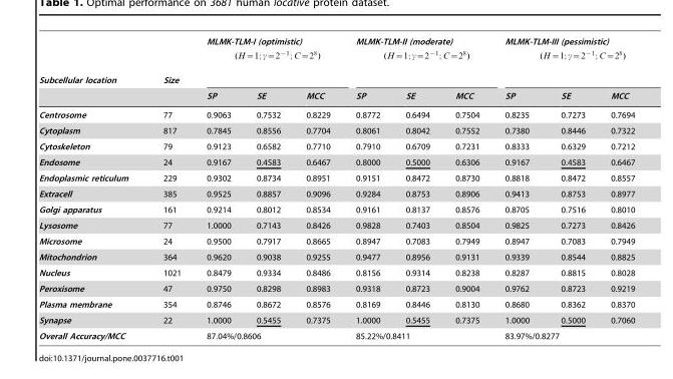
<table><thead><tr><td rowspan="2">Subcellular location</td><td rowspan="2">Size</td><td colspan="3">MLMK-TLM-I (optimistic) (H~1; c~2{1; C~28)</td><td colspan="3">MLMK-TLM-II (moderate) (H~1; c~2{1; C~28)</td><td colspan="3">MLMK-TLM-III (pessimistic) (H~1; c~2{1; C~28)</td></tr><tr><td>SP</td><td>SE</td><td>MCC</td><td>SP</td><td>SE</td><td>MCC</td><td>SP</td><td>SE</td><td>MCC</td></tr></thead><tbody><tr><td>Centrosome</td><td>77</td><td>0.9063</td><td>0.7532</td><td>0.8229</td><td>0.8772</td><td>0.6494</td><td>0.7504</td><td>0.8235</td><td>0.7273</td><td>0.7694</td></tr><tr><td>Cytoplasm</td><td>817</td><td>0.7845</td><td>0.8556</td><td>0.7704</td><td>0.8061</td><td>0.8042</td><td>0.7552</td><td>0.7380</td><td>0.8446</td><td>0.7322</td></tr><tr><td>Cytoskeleton</td><td>79</td><td>0.9123</td><td>0.6582</td><td>0.7710</td><td>0.7910</td><td>0.6709</td><td>0.7231</td><td>0.8333</td><td>0.6329</td><td>0.7212</td></tr><tr><td>Endosome</td><td>24</td><td>0.9167</td><td>0.4583</td><td>0.6467</td><td>0.8000</td><td>0.5000</td><td>0.6306</td><td>0.9167</td><td>0.4583</td><td>0.6467</td></tr><tr><td>Endoplasmic reticulum</td><td>229</td><td>0.9302</td><td>0.8734</td><td>0.8951</td><td>0.9151</td><td>0.8472</td><td>0.8730</td><td>0.8818</td><td>0.8472</td><td>0.8557</td></tr><tr><td>Extracell</td><td>385</td><td>0.9525</td><td>0.8857</td><td>0.9096</td><td>0.9284</td><td>0.8753</td><td>0.8906</td><td>0.9413</td><td>0.8753</td><td>0.8977</td></tr><tr><td>Golgi apparatus</td><td>161</td><td>0.9214</td><td>0.8012</td><td>0.8534</td><td>0.9161</td><td>0.8137</td><td>0.8576</td><td>0.8705</td><td>0.7516</td><td>0.8010</td></tr><tr><td>Lysosome</td><td>77</td><td>1.0000</td><td>0.7143</td><td>0.8426</td><td>0.9828</td><td>0.7403</td><td>0.8504</td><td>0.9825</td><td>0.7273</td><td>0.8426</td></tr><tr><td>Microsome</td><td>24</td><td>0.9500</td><td>0.7917</td><td>0.8665</td><td>0.8947</td><td>0.7083</td><td>0.7949</td><td>0.8947</td><td>0.7083</td><td>0.7949</td></tr><tr><td>Mitochondrion</td><td>364</td><td>0.9620</td><td>0.9038</td><td>0.9255</td><td>0.9477</td><td>0.8956</td><td>0.9131</td><td>0.9339</td><td>0.8544</td><td>0.8825</td></tr><tr><td>Nucleus</td><td>1021</td><td>0.8479</td><td>0.9334</td><td>0.8486</td><td>0.8156</td><td>0.9314</td><td>0.8238</td><td>0.8287</td><td>0.8815</td><td>0.8028</td></tr><tr><td>Peroxisome</td><td>47</td><td>0.9750</td><td>0.8298</td><td>0.8983</td><td>0.9318</td><td>0.8723</td><td>0.9004</td><td>0.9762</td><td>0.8723</td><td>0.9219</td></tr><tr><td>Plasma membrane</td><td>354</td><td>0.8746</td><td>0.8672</td><td>0.8576</td><td>0.8169</td><td>0.8446</td><td>0.8130</td><td>0.8680</td><td>0.8362</td><td>0.8370</td></tr><tr><td>Synapse</td><td>22</td><td>1.0000</td><td>0.5455</td><td>0.7375</td><td>1.0000</td><td>0.5455</td><td>0.7375</td><td>1.0000</td><td>0.5000</td><td>0.7060</td></tr><tr><td colspan="2">Overall Accuracy/MCC</td><td colspan="3">87.04%/0.8606</td><td colspan="3">85.22%/0.8411</td><td colspan="3">83.97%/0.8277</td></tr></tbody></table>